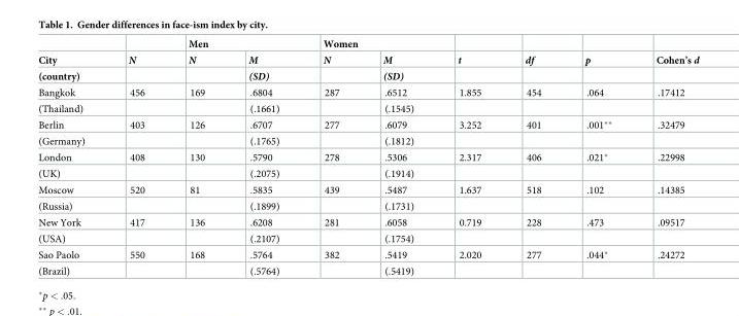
<table><thead><tr><td rowspan="3">City (country)</td><td rowspan="3">N</td><td colspan="2">Men</td><td colspan="2">Women</td><td rowspan="3">t</td><td rowspan="3">df</td><td rowspan="3">p</td><td rowspan="3">Cohen’s d</td></tr><tr><td rowspan="2">N</td><td rowspan="2">M (SD)</td><td rowspan="2">N</td><td rowspan="2">M (SD)</td></tr><tr></tr></thead><tbody><tr><td>Bangkok</td><td>456</td><td>169</td><td>.6804</td><td>287</td><td>.6512</td><td>1.855</td><td>454</td><td>.064</td><td>.17412</td></tr><tr><td>(Thailand)</td><td></td><td></td><td>(.1661)</td><td></td><td>(.1545)</td><td></td><td></td><td></td><td></td></tr><tr><td>Berlin</td><td>403</td><td>126</td><td>.6707</td><td>277</td><td>.6079</td><td>3.252</td><td>401</td><td>.001**</td><td>.32479</td></tr><tr><td>(Germany)</td><td></td><td></td><td>(.1765)</td><td></td><td>(.1812)</td><td></td><td></td><td></td><td></td></tr><tr><td>London</td><td>408</td><td>130</td><td>.5790</td><td>278</td><td>.5306</td><td>2.317</td><td>406</td><td>.021*</td><td>.22998</td></tr><tr><td>(UK)</td><td></td><td></td><td>(.2075)</td><td></td><td>(.1914)</td><td></td><td></td><td></td><td></td></tr><tr><td>Moscow</td><td>520</td><td>81</td><td>.5835</td><td>439</td><td>.5487</td><td>1.637</td><td>518</td><td>.102</td><td>.14385</td></tr><tr><td>(Russia)</td><td></td><td></td><td>(.1899)</td><td></td><td>(.1731)</td><td></td><td></td><td></td><td></td></tr><tr><td>New York</td><td>417</td><td>136</td><td>.6208</td><td>281</td><td>.6058</td><td>0.719</td><td>228</td><td>.473</td><td>.09517</td></tr><tr><td>(USA)</td><td></td><td></td><td>(.2107)</td><td></td><td>(.1754)</td><td></td><td></td><td></td><td></td></tr><tr><td>Sao Paolo</td><td>550</td><td>168</td><td>.5764</td><td>382</td><td>.5419</td><td>2.020</td><td>277</td><td>.044*</td><td>.24272</td></tr><tr><td>(Brazil)</td><td></td><td></td><td>(.5764)</td><td></td><td>(.5419)</td><td></td><td></td><td></td><td></td></tr></tbody></table>